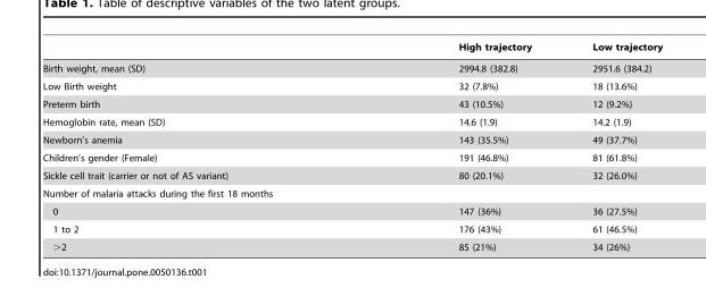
<table><thead><tr><td></td><td>High trajectory</td><td>Low trajectory</td></tr></thead><tbody><tr><td>Birth weight, mean (SD)</td><td>2994.8 (382.8)</td><td>2951.6 (384.2)</td></tr><tr><td>Low Birth weight</td><td>32 (7.8%)</td><td>18 (13.6%)</td></tr><tr><td>Preterm birth</td><td>43 (10.5%)</td><td>12 (9.2%)</td></tr><tr><td>Hemoglobin rate, mean (SD)</td><td>14.6 (1.9)</td><td>14.2 (1.9)</td></tr><tr><td>Newborn’s anemia</td><td>143 (35.5%)</td><td>49 (37.7%)</td></tr><tr><td>Children’s gender (Female)</td><td>191 (46.8%)</td><td>81 (61.8%)</td></tr><tr><td>Sickle cell trait (carrier or not of AS variant)</td><td>80 (20.1%)</td><td>32 (26.0%)</td></tr><tr><td colspan="3">Number of malaria attacks during the first 18 months</td></tr><tr><td>0</td><td>147 (36%)</td><td>36 (27.5%)</td></tr><tr><td>1 to 2</td><td>176 (43%)</td><td>61 (46.5%)</td></tr><tr><td>&gt;2</td><td>85 (21%)</td><td>34 (26%)</td></tr></tbody></table>